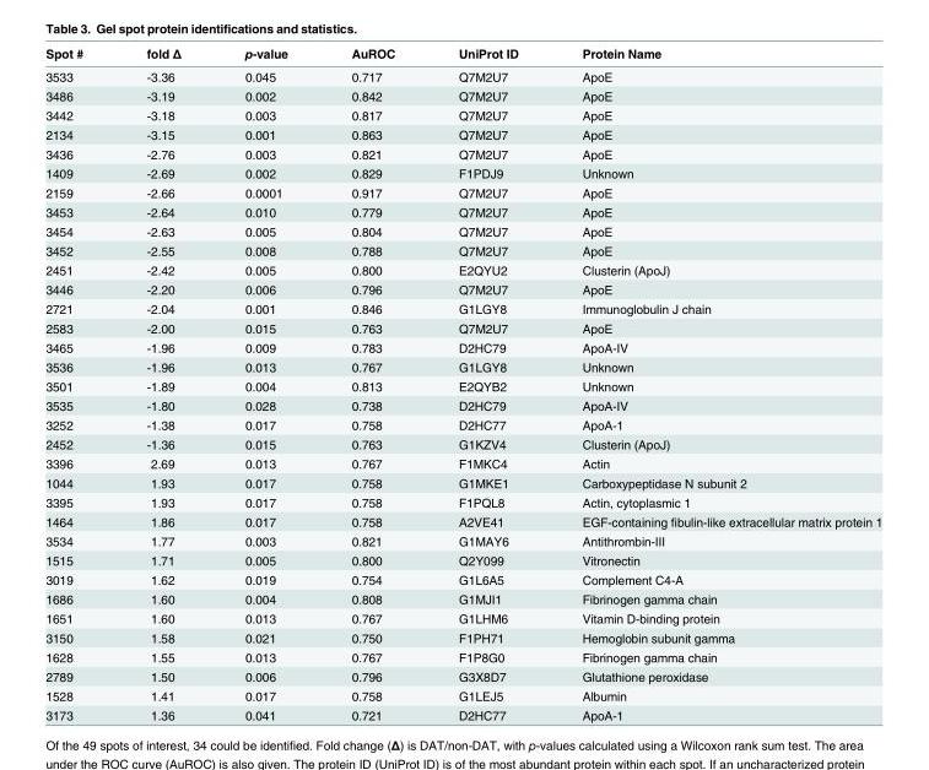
<table><thead><tr><td>Spot #</td><td>fold Δ</td><td>p-value</td><td>AuROC</td><td>UniProt ID</td><td>Protein Name</td></tr></thead><tbody><tr><td>3533</td><td>-3.36</td><td>0.045</td><td>0.717</td><td>Q7M2U7</td><td>ApoE</td></tr><tr><td>3486</td><td>-3.19</td><td>0.002</td><td>0.842</td><td>Q7M2U7</td><td>ApoE</td></tr><tr><td>3442</td><td>-3.18</td><td>0.003</td><td>0.817</td><td>Q7M2U7</td><td>ApoE</td></tr><tr><td>2134</td><td>-3.15</td><td>0.001</td><td>0.863</td><td>Q7M2U7</td><td>ApoE</td></tr><tr><td>3436</td><td>-2.76</td><td>0.003</td><td>0.821</td><td>Q7M2U7</td><td>ApoE</td></tr><tr><td>1409</td><td>-2.69</td><td>0.002</td><td>0.829</td><td>F1PDJ9</td><td>Unknown</td></tr><tr><td>2159</td><td>-2.66</td><td>0.0001</td><td>0.917</td><td>Q7M2U7</td><td>ApoE</td></tr><tr><td>3453</td><td>-2.64</td><td>0.010</td><td>0.779</td><td>Q7M2U7</td><td>ApoE</td></tr><tr><td>3454</td><td>-2.63</td><td>0.005</td><td>0.804</td><td>Q7M2U7</td><td>ApoE</td></tr><tr><td>3452</td><td>-2.55</td><td>0.008</td><td>0.788</td><td>Q7M2U7</td><td>ApoE</td></tr><tr><td>2451</td><td>-2.42</td><td>0.005</td><td>0.800</td><td>E2QYU2</td><td>Clusterin (ApoJ)</td></tr><tr><td>3446</td><td>-2.20</td><td>0.006</td><td>0.796</td><td>Q7M2U7</td><td>ApoE</td></tr><tr><td>2721</td><td>-2.04</td><td>0.001</td><td>0.846</td><td>G1LGY8</td><td>Immunoglobulin J chain</td></tr><tr><td>2583</td><td>-2.00</td><td>0.015</td><td>0.763</td><td>Q7M2U7</td><td>ApoE</td></tr><tr><td>3465</td><td>-1.96</td><td>0.009</td><td>0.783</td><td>D2HC79</td><td>ApoA-IV</td></tr><tr><td>3536</td><td>-1.96</td><td>0.013</td><td>0.767</td><td>G1LGY8</td><td>Unknown</td></tr><tr><td>3501</td><td>-1.89</td><td>0.004</td><td>0.813</td><td>E2QYB2</td><td>Unknown</td></tr><tr><td>3535</td><td>-1.80</td><td>0.028</td><td>0.738</td><td>D2HC79</td><td>ApoA-IV</td></tr><tr><td>3252</td><td>-1.38</td><td>0.017</td><td>0.758</td><td>D2HC77</td><td>ApoA-1</td></tr><tr><td>2452</td><td>-1.36</td><td>0.015</td><td>0.763</td><td>G1KZV4</td><td>Clusterin (ApoJ)</td></tr><tr><td>3396</td><td>2.69</td><td>0.013</td><td>0.767</td><td>F1MKC4</td><td>Actin</td></tr><tr><td>1044</td><td>1.93</td><td>0.017</td><td>0.758</td><td>G1MKE1</td><td>Carboxypeptidase N subunit 2</td></tr><tr><td>3395</td><td>1.93</td><td>0.017</td><td>0.758</td><td>F1PQL8</td><td>Actin, cytoplasmic 1</td></tr><tr><td>1464</td><td>1.86</td><td>0.017</td><td>0.758</td><td>A2VE41</td><td>EGF-containing fibulin-like extracellular matrix protein 1</td></tr><tr><td>3534</td><td>1.77</td><td>0.003</td><td>0.821</td><td>G1MAY6</td><td>Antithrombin-III</td></tr><tr><td>1515</td><td>1.71</td><td>0.005</td><td>0.800</td><td>Q2Y099</td><td>Vitronectin</td></tr><tr><td>3019</td><td>1.62</td><td>0.019</td><td>0.754</td><td>G1L6A5</td><td>Complement C4-A</td></tr><tr><td>1686</td><td>1.60</td><td>0.004</td><td>0.808</td><td>G1MJI1</td><td>Fibrinogen gamma chain</td></tr><tr><td>1651</td><td>1.60</td><td>0.013</td><td>0.767</td><td>G1LHM6</td><td>Vitamin D-binding protein</td></tr><tr><td>3150</td><td>1.58</td><td>0.021</td><td>0.750</td><td>F1PH71</td><td>Hemoglobin subunit gamma</td></tr><tr><td>1628</td><td>1.55</td><td>0.013</td><td>0.767</td><td>F1P8G0</td><td>Fibrinogen gamma chain</td></tr><tr><td>2789</td><td>1.50</td><td>0.006</td><td>0.796</td><td>G3X8D7</td><td>Glutathione peroxidase</td></tr><tr><td>1528</td><td>1.41</td><td>0.017</td><td>0.758</td><td>G1LEJ5</td><td>Albumin</td></tr><tr><td>3173</td><td>1.36</td><td>0.041</td><td>0.721</td><td>D2HC77</td><td>ApoA-1</td></tr></tbody></table>